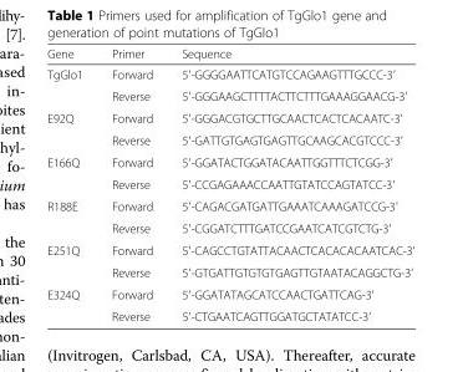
<table><thead><tr><td>Gene</td><td>Primer</td><td>Sequence</td></tr></thead><tbody><tr><td rowspan="2">TgGlo1</td><td>Forward</td><td>5′-GGGGAATTCATGTCCAGAAGTTTGCCC-3′</td></tr><tr><td>Reverse</td><td>5′-GGGAAGCTTTTACTTCTTTGAAAGGAACG-3′</td></tr><tr><td rowspan="2">E92Q</td><td>Forward</td><td>5′-GGGACGTGCTTGCAACTCACTCACAATC-3′</td></tr><tr><td>Reverse</td><td>5′-GATTGTGAGTGAGTTGCAAGCACGTCCC-3′</td></tr><tr><td rowspan="2">E166Q</td><td>Forward</td><td>5′-GGATACTGGATACAATTGGTTTCTCGG-3′</td></tr><tr><td>Reverse</td><td>5′-CCGAGAAACCAATTGTATCCAGTATCC-3′</td></tr><tr><td rowspan="2">R188E</td><td>Forward</td><td>5′-CAGACGATGATTGAAATCAAAGATCCG-3′</td></tr><tr><td>Reverse</td><td>5′-CGGATCTTTGATCCGAATCATCGTCTG-3′</td></tr><tr><td rowspan="2">E251Q</td><td>Forward</td><td>5′-CAGCCTGTATTACAACTCACACACAATCAC-3′</td></tr><tr><td>Reverse</td><td>5′-GTGATTGTGTGTGAGTTGTAATACAGGCTG-3′</td></tr><tr><td rowspan="2">E324Q</td><td>Forward</td><td>5′-GGATATAGCATCCAACTGATTCAG-3′</td></tr><tr><td>Reverse</td><td>5′-CTGAATCAGTTGGATGCTATATCC-3′</td></tr></tbody></table>